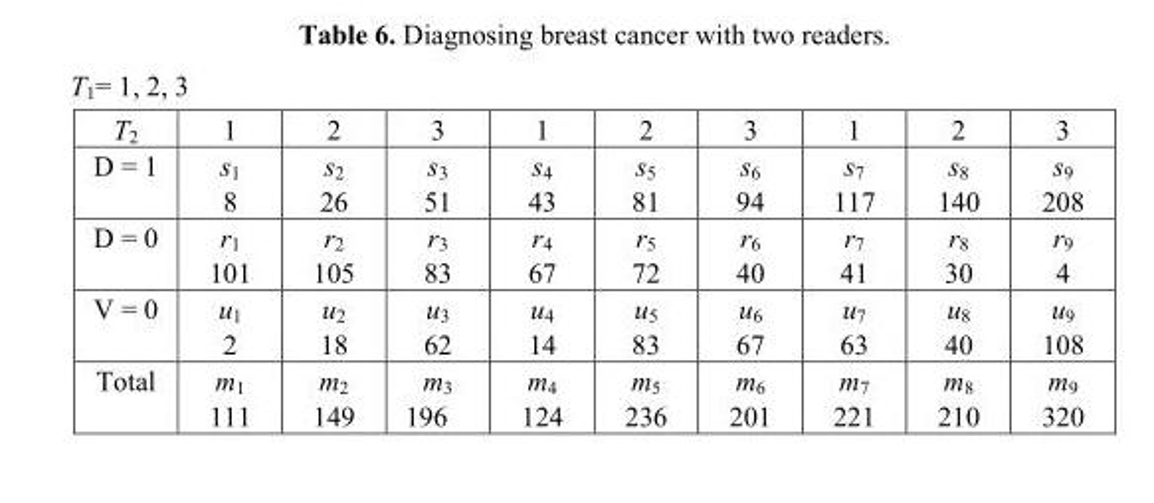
<table><tbody><tr><td colspan="10">T<sub>1</sub>= 1, 2, 3</td></tr><tr><td>T<sub>2</sub></td><td>1</td><td>2</td><td>3</td><td>1</td><td>2</td><td>3</td><td>1</td><td>2</td><td>3</td></tr><tr><td>D = 1</td><td>s<sub>1</sub> 8</td><td>s<sub>2</sub> 26</td><td>s<sub>3</sub> 51</td><td>s<sub>4</sub> 43</td><td>s<sub>5</sub> 81</td><td>s<sub>6</sub> 94</td><td>s<sub>7</sub> 117</td><td>s<sub>8</sub> 140</td><td>s<sub>9</sub> 208</td></tr><tr><td>D = 0</td><td>r<sub>1</sub> 101</td><td>r<sub>2</sub> 105</td><td>r<sub>3</sub> 83</td><td>r<sub>4</sub> 67</td><td>r<sub>5</sub> 72</td><td>r<sub>6</sub> 40</td><td>r<sub>7</sub> 41</td><td>r<sub>8</sub> 30</td><td>r<sub>9</sub> 4</td></tr><tr><td>V = 0</td><td>u<sub>1</sub> 2</td><td>u<sub>2</sub> 18</td><td>u<sub>3</sub> 62</td><td>u<sub>4</sub> 14</td><td>u<sub>5</sub> 83</td><td>u<sub>6</sub> 67</td><td>u<sub>7</sub> 63</td><td>u<sub>8</sub> 40</td><td>u<sub>9</sub> 108</td></tr><tr><td>Total</td><td>m<sub>1</sub> 111</td><td>m<sub>2</sub> 149</td><td>m<sub>3</sub> 196</td><td>m4 124</td><td>m<sub>5</sub> 236</td><td>m<sub>6</sub> 201</td><td>m<sub>7</sub> 221</td><td>m<sub>8</sub> 210</td><td>m<sub>9</sub> 320</td></tr></tbody></table>